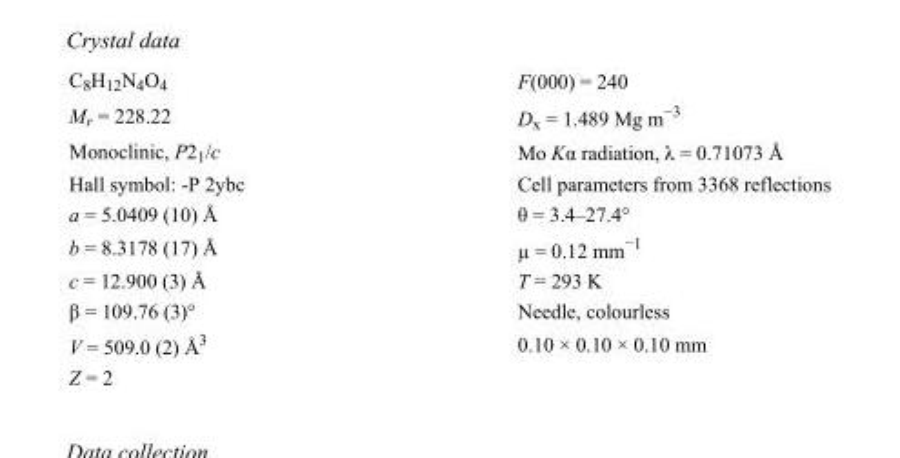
<table><tbody><tr><td>C<sub>8</sub>H<sub>12</sub>N<sub>4</sub>O<sub>4</sub></td><td>F(000) = 240</td></tr><tr><td>M<sub>r</sub> = 228.22</td><td>D<sub>x</sub> = 1.489 Mg m<sup>−3</sup></td></tr><tr><td>Monoclinic, P2<sub>1</sub>/c</td><td>Mo Kα radiation, λ = 0.71073 Å</td></tr><tr><td>Hall symbol: -P 2ybc</td><td>Cell parameters from 3368 reflections</td></tr><tr><td>a = 5.0409 (10) Å</td><td>θ = 3.4–27.4°</td></tr><tr><td>b = 8.3178 (17) Å</td><td>µ = 0.12 mm<sup>−1</sup></td></tr><tr><td>c = 12.900 (3) Å</td><td>T = 293 K</td></tr><tr><td>β = 109.76 (3)°</td><td>Needle, colourless</td></tr><tr><td>V = 509.0 (2) Å<sup>3</sup></td><td>0.10 × 0.10 × 0.10 mm</td></tr><tr><td>Z = 2</td><td></td></tr></tbody></table>